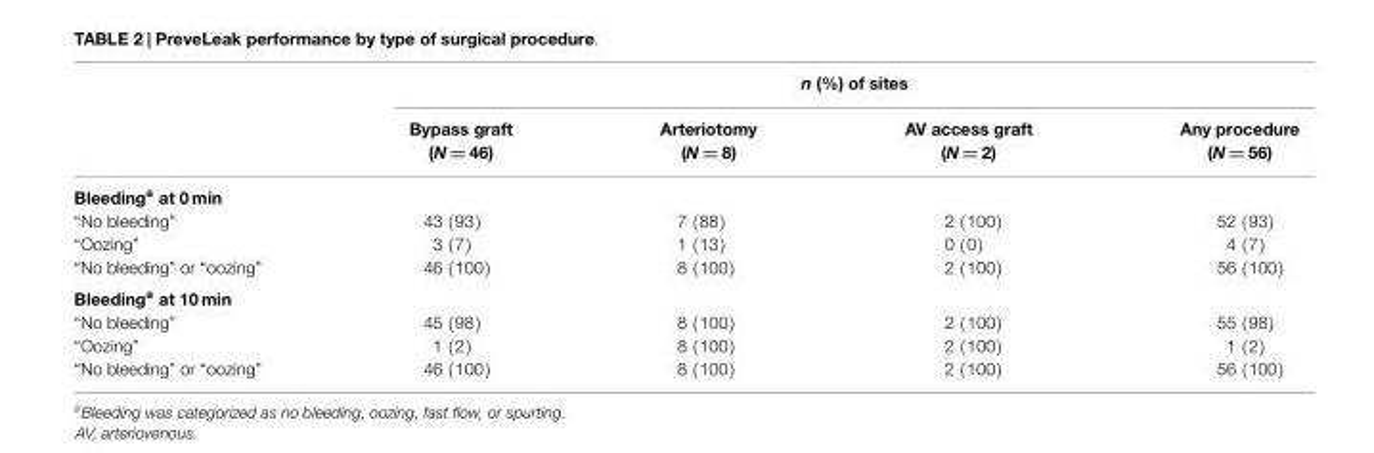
<table><thead><tr><td rowspan="2"></td><td colspan="4">n (%) of sites</td></tr><tr><td>Bypass graft (N = 46)</td><td>Arteriotomy (N = 8)</td><td>AV access graft (N = 2)</td><td>Any procedure (N = 56)</td></tr></thead><tbody><tr><td colspan="5">Bleeding<sup>a</sup> at 0 min</td></tr><tr><td>“No bleeding”</td><td>43 (93)</td><td>7 (88)</td><td>2 (100)</td><td>52 (93)</td></tr><tr><td>“Oozing”</td><td>3 (7)</td><td>1 (13)</td><td>0 (0)</td><td>4 (7)</td></tr><tr><td>“No bleeding” or “oozing”</td><td>46 (100)</td><td>8 (100)</td><td>2 (100)</td><td>56 (100)</td></tr><tr><td colspan="5">Bleeding<sup>a</sup> at 10 min</td></tr><tr><td>“No bleeding”</td><td>45 (98)</td><td>8 (100)</td><td>2 (100)</td><td>55 (98)</td></tr><tr><td>“Oozing”</td><td>1 (2)</td><td>8 (100)</td><td>2 (100)</td><td>1 (2)</td></tr><tr><td>“No bleeding” or “oozing”</td><td>46 (100)</td><td>8 (100)</td><td>2 (100)</td><td>56 (100)</td></tr></tbody></table>